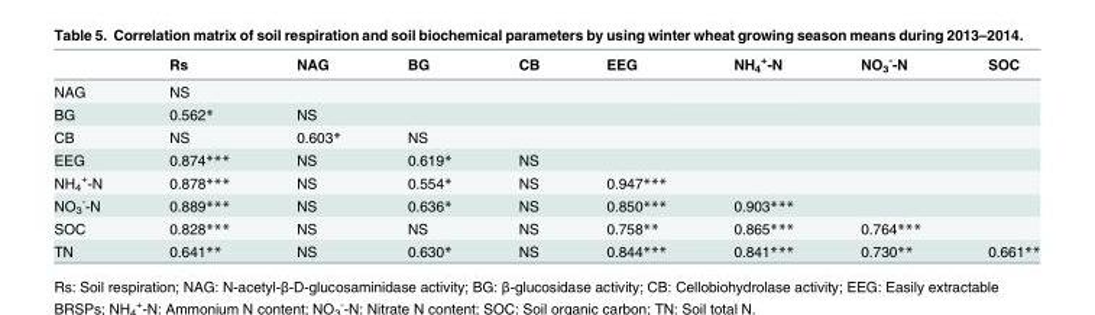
<table><thead><tr><td></td><td>Rs</td><td>NAG</td><td>BG</td><td>CB</td><td>EEG</td><td>NH<sub>4</sub> <sup>+</sup>-N</td><td>NO<sub>3</sub> <sup>-</sup>-N</td><td>SOC</td></tr></thead><tbody><tr><td>NAG</td><td>NS</td><td></td><td></td><td></td><td></td><td></td><td></td><td></td></tr><tr><td>BG</td><td>0.562*</td><td>NS</td><td></td><td></td><td></td><td></td><td></td><td></td></tr><tr><td>CB</td><td>NS</td><td>0.603*</td><td>NS</td><td></td><td></td><td></td><td></td><td></td></tr><tr><td>EEG</td><td>0.874***</td><td>NS</td><td>0.619*</td><td>NS</td><td></td><td></td><td></td><td></td></tr><tr><td>NH<sub>4</sub> <sup>+</sup>-N</td><td>0.878***</td><td>NS</td><td>0.554*</td><td>NS</td><td>0.947***</td><td></td><td></td><td></td></tr><tr><td>NO<sub>3</sub> <sup>-</sup>-N</td><td>0.889***</td><td>NS</td><td>0.636*</td><td>NS</td><td>0.850***</td><td>0.903***</td><td></td><td></td></tr><tr><td>SOC</td><td>0.828***</td><td>NS</td><td>NS</td><td>NS</td><td>0.758**</td><td>0.865***</td><td>0.764***</td><td></td></tr><tr><td>TN</td><td>0.641**</td><td>NS</td><td>0.630*</td><td>NS</td><td>0.844***</td><td>0.841***</td><td>0.730**</td><td>0.661**</td></tr></tbody></table>